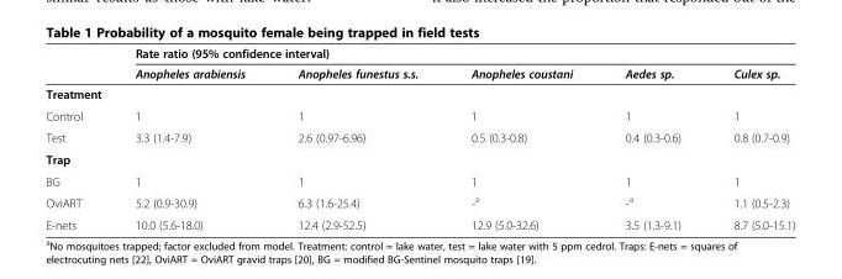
<table><thead><tr><td rowspan="2"></td><td colspan="5">Rate ratio (95% confidence interval)</td></tr><tr><td>Anopheles arabiensis</td><td>Anopheles funestus s.s.</td><td>Anopheles coustani</td><td>Aedes sp.</td><td>Culex sp.</td></tr></thead><tbody><tr><td colspan="6">Treatment</td></tr><tr><td>Control</td><td>1</td><td>1</td><td>1</td><td>1</td><td>1</td></tr><tr><td>Test</td><td>3.3 (1.4-7.9)</td><td>2.6 (0.97-6.96)</td><td>0.5 (0.3-0.8)</td><td>0.4 (0.3-0.6)</td><td>0.8 (0.7-0.9)</td></tr><tr><td colspan="6">Trap</td></tr><tr><td>BG</td><td>1</td><td>1</td><td>1</td><td>1</td><td>1</td></tr><tr><td>OviART</td><td>5.2 (0.9-30.9)</td><td>6.3 (1.6-25.4)</td><td>-<sup>a</sup></td><td>-<sup>a</sup></td><td>1.1 (0.5-2.3)</td></tr><tr><td>E-nets</td><td>10.0 (5.6-18.0)</td><td>12.4 (2.9-52.5)</td><td>12.9 (5.0-32.6)</td><td>3.5 (1.3-9.1)</td><td>8.7 (5.0-15.1)</td></tr></tbody></table>